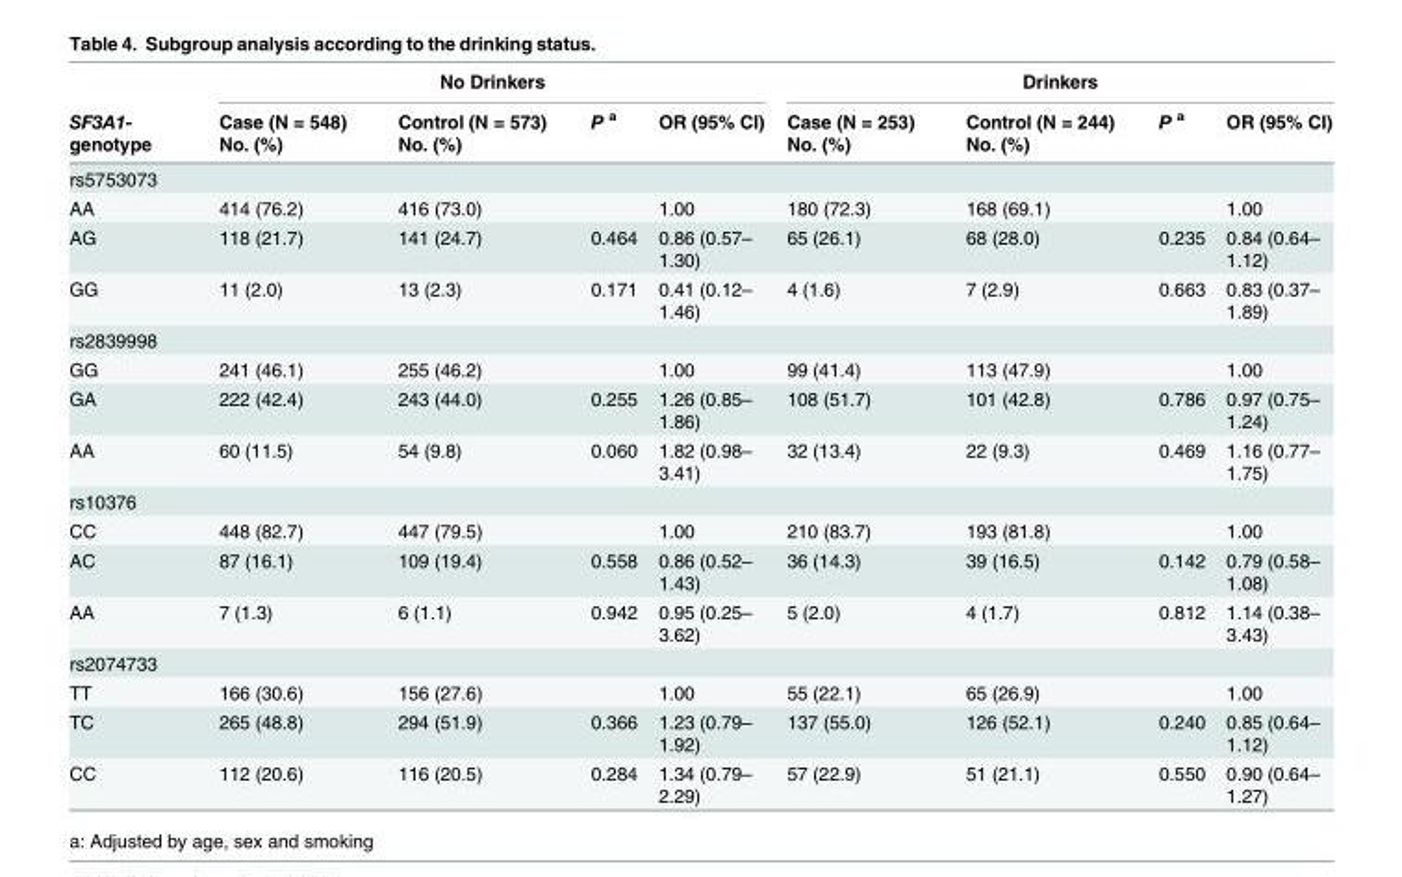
<table><thead><tr><td rowspan="2">SF3A1- genotype</td><td colspan="4">No Drinkers</td><td colspan="4">Drinkers</td></tr><tr><td>Case (N = 548) No. (%)</td><td>Control (N = 573) No. (%)</td><td>P <sup>a</sup></td><td>OR (95% CI)</td><td>Case (N = 253) No. (%)</td><td>Control (N = 244) No. (%)</td><td>P <sup>a</sup></td><td>OR (95% CI)</td></tr></thead><tbody><tr><td colspan="9">rs5753073</td></tr><tr><td>AA</td><td>414 (76.2)</td><td>416 (73.0)</td><td></td><td>1.00</td><td>180 (72.3)</td><td>168 (69.1)</td><td></td><td>1.00</td></tr><tr><td>AG</td><td>118 (21.7)</td><td>141 (24.7)</td><td>0.464</td><td>0.86 (0.57– 1.30)</td><td>65 (26.1)</td><td>68 (28.0)</td><td>0.235</td><td>0.84 (0.64– 1.12)</td></tr><tr><td>GG</td><td>11 (2.0)</td><td>13 (2.3)</td><td>0.171</td><td>0.41 (0.12– 1.46)</td><td>4 (1.6)</td><td>7 (2.9)</td><td>0.663</td><td>0.83 (0.37– 1.89)</td></tr><tr><td colspan="9">rs2839998</td></tr><tr><td>GG</td><td>241 (46.1)</td><td>255 (46.2)</td><td></td><td>1.00</td><td>99 (41.4)</td><td>113 (47.9)</td><td></td><td>1.00</td></tr><tr><td>GA</td><td>222 (42.4)</td><td>243 (44.0)</td><td>0.255</td><td>1.26 (0.85– 1.86)</td><td>108 (51.7)</td><td>101 (42.8)</td><td>0.786</td><td>0.97 (0.75– 1.24)</td></tr><tr><td>AA</td><td>60 (11.5)</td><td>54 (9.8)</td><td>0.060</td><td>1.82 (0.98– 3.41)</td><td>32 (13.4)</td><td>22 (9.3)</td><td>0.469</td><td>1.16 (0.77– 1.75)</td></tr><tr><td colspan="9">rs10376</td></tr><tr><td>CC</td><td>448 (82.7)</td><td>447 (79.5)</td><td></td><td>1.00</td><td>210 (83.7)</td><td>193 (81.8)</td><td></td><td>1.00</td></tr><tr><td>AC</td><td>87 (16.1)</td><td>109 (19.4)</td><td>0.558</td><td>0.86 (0.52– 1.43)</td><td>36 (14.3)</td><td>39 (16.5)</td><td>0.142</td><td>0.79 (0.58– 1.08)</td></tr><tr><td>AA</td><td>7 (1.3)</td><td>6 (1.1)</td><td>0.942</td><td>0.95 (0.25– 3.62)</td><td>5 (2.0)</td><td>4 (1.7)</td><td>0.812</td><td>1.14 (0.38– 3.43)</td></tr><tr><td colspan="9">rs2074733</td></tr><tr><td>TT</td><td>166 (30.6)</td><td>156 (27.6)</td><td></td><td>1.00</td><td>55 (22.1)</td><td>65 (26.9)</td><td></td><td>1.00</td></tr><tr><td>TC</td><td>265 (48.8)</td><td>294 (51.9)</td><td>0.366</td><td>1.23 (0.79– 1.92)</td><td>137 (55.0)</td><td>126 (52.1)</td><td>0.240</td><td>0.85 (0.64– 1.12)</td></tr><tr><td>CC</td><td>112 (20.6)</td><td>116 (20.5)</td><td>0.284</td><td>1.34 (0.79– 2.29)</td><td>57 (22.9)</td><td>51 (21.1)</td><td>0.550</td><td>0.90 (0.64– 1.27)</td></tr></tbody></table>